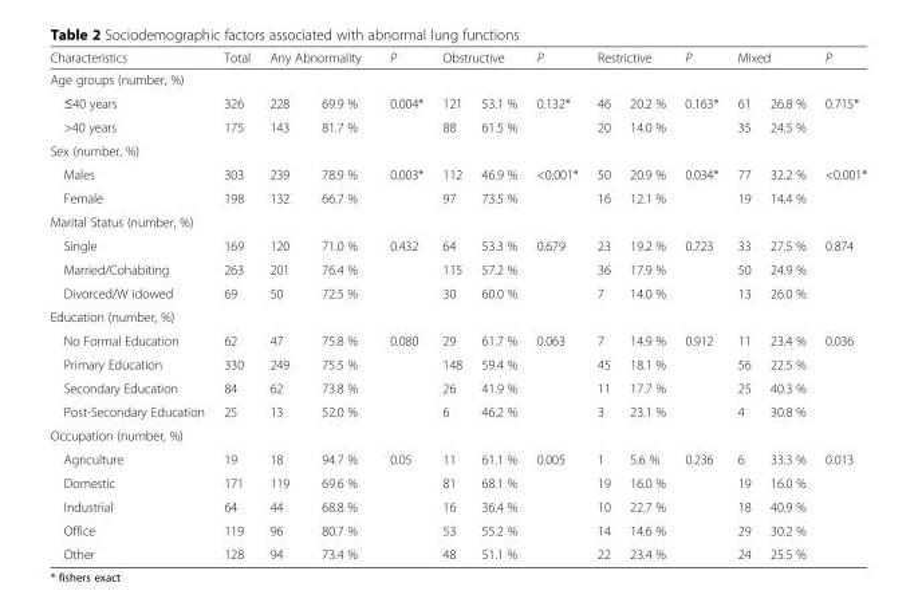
<table><thead><tr><td>Characteristics</td><td>Total</td><td colspan="2">Any Abnormality</td><td>P</td><td colspan="2">Obstructive</td><td>P</td><td colspan="2">Restrictive</td><td>P</td><td colspan="2">Mixed</td><td>P</td></tr><tr><td colspan="14">Age groups (number, %)</td></tr><tr><td>≤40 years</td><td>326</td><td>228</td><td>69.9 %</td><td>0.004*</td><td>121</td><td>53.1 %</td><td>0.132*</td><td>46</td><td>20.2 %</td><td>0.163*</td><td>61</td><td>26.8 %</td><td>0.715*</td></tr></thead><tbody><tr><td>&gt;40 years</td><td>175</td><td>143</td><td>81.7 %</td><td></td><td>88</td><td>61.5 %</td><td></td><td>20</td><td>14.0 %</td><td></td><td>35</td><td>24.5 %</td><td></td></tr><tr><td colspan="14">Sex (number, %)</td></tr><tr><td>Males</td><td>303</td><td>239</td><td>78.9 %</td><td>0.003*</td><td>112</td><td>46.9 %</td><td>&lt;0.001*</td><td>50</td><td>20.9 %</td><td>0.034*</td><td>77</td><td>32.2 %</td><td>&lt;0.001*</td></tr><tr><td>Female</td><td>198</td><td>132</td><td>66.7 %</td><td></td><td>97</td><td>73.5 %</td><td></td><td>16</td><td>12.1 %</td><td></td><td>19</td><td>14.4 %</td><td></td></tr><tr><td colspan="14">Marital Status (number, %)</td></tr><tr><td>Single</td><td>169</td><td>120</td><td>71.0 %</td><td>0.432</td><td>64</td><td>53.3 %</td><td>0.679</td><td>23</td><td>19.2 %</td><td>0.723</td><td>33</td><td>27.5 %</td><td>0.874</td></tr><tr><td>Married/Cohabiting</td><td>263</td><td>201</td><td>76.4 %</td><td></td><td>115</td><td>57.2 %</td><td></td><td>36</td><td>17.9 %</td><td></td><td>50</td><td>24.9 %</td><td></td></tr><tr><td>Divorced/W idowed</td><td>69</td><td>50</td><td>72.5 %</td><td></td><td>30</td><td>60.0 %</td><td></td><td>7</td><td>14.0 %</td><td></td><td>13</td><td>26.0 %</td><td></td></tr><tr><td colspan="14">Education (number, %)</td></tr><tr><td>No Formal Education</td><td>62</td><td>47</td><td>75.8 %</td><td>0.080</td><td>29</td><td>61.7 %</td><td>0.063</td><td>7</td><td>14.9 %</td><td>0.912</td><td>11</td><td>23.4 %</td><td>0.036</td></tr><tr><td>Primary Education</td><td>330</td><td>249</td><td>75.5 %</td><td></td><td>148</td><td>59.4 %</td><td></td><td>45</td><td>18.1 %</td><td></td><td>56</td><td>22.5 %</td><td></td></tr><tr><td>Secondary Education</td><td>84</td><td>62</td><td>73.8 %</td><td></td><td>26</td><td>41.9 %</td><td></td><td>11</td><td>17.7 %</td><td></td><td>25</td><td>40.3 %</td><td></td></tr><tr><td>Post-Secondary Education</td><td>25</td><td>13</td><td>52.0 %</td><td></td><td>6</td><td>46.2 %</td><td></td><td>3</td><td>23.1 %</td><td></td><td>4</td><td>30.8 %</td><td></td></tr><tr><td colspan="14">Occupation (number, %)</td></tr><tr><td>Agriculture</td><td>19</td><td>18</td><td>94.7 %</td><td>0.05</td><td>11</td><td>61.1 %</td><td>0.005</td><td>1</td><td>5.6 %</td><td>0.236</td><td>6</td><td>33.3 %</td><td>0.013</td></tr><tr><td>Domestic</td><td>171</td><td>119</td><td>69.6 %</td><td></td><td>81</td><td>68.1 %</td><td></td><td>19</td><td>16.0 %</td><td></td><td>19</td><td>16.0 %</td><td></td></tr><tr><td>Industrial</td><td>64</td><td>44</td><td>68.8 %</td><td></td><td>16</td><td>36.4 %</td><td></td><td>10</td><td>22.7 %</td><td></td><td>18</td><td>40.9 %</td><td></td></tr><tr><td>Office</td><td>119</td><td>96</td><td>80.7 %</td><td></td><td>53</td><td>55.2 %</td><td></td><td>14</td><td>14.6 %</td><td></td><td>29</td><td>30.2 %</td><td></td></tr><tr><td>Other</td><td>128</td><td>94</td><td>73.4 %</td><td></td><td>48</td><td>51.1 %</td><td></td><td>22</td><td>23.4 %</td><td></td><td>24</td><td>25.5 %</td><td></td></tr></tbody></table>